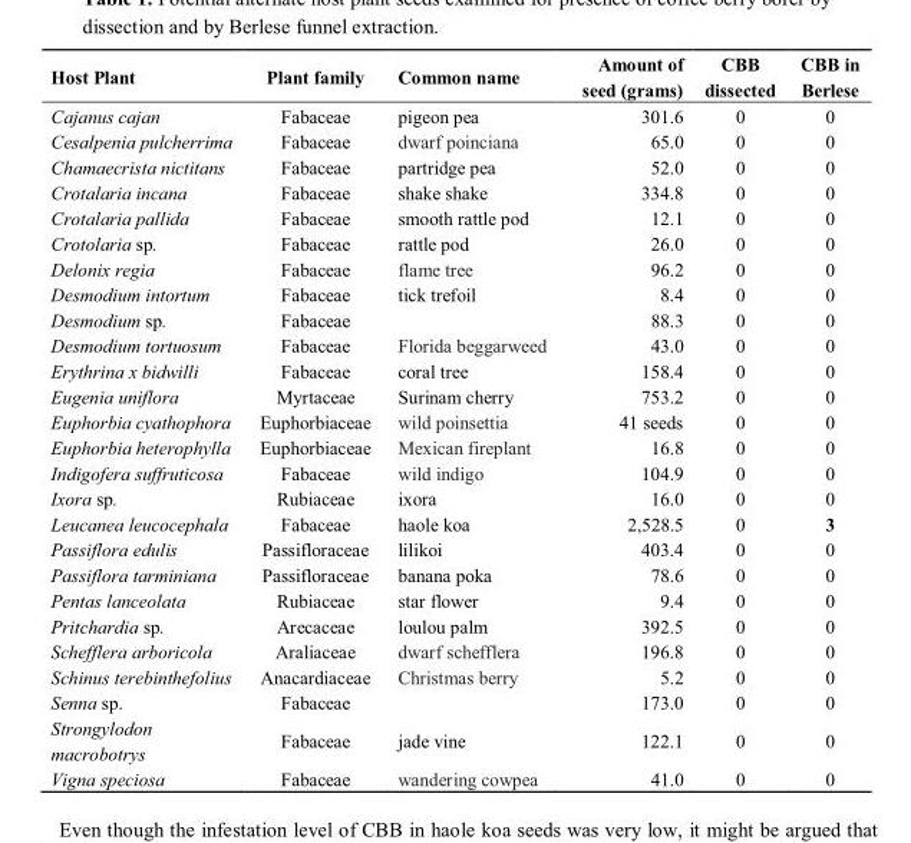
<table><thead><tr><td>Host Plant</td><td>Plant family</td><td>Common name</td><td>Amount of seed (grams)</td><td>CBB dissected</td><td>CBB in Berlese</td></tr></thead><tbody><tr><td>Cajanus cajan</td><td>Fabaceae</td><td>pigeon pea</td><td>301.6</td><td>0</td><td>0</td></tr><tr><td>Cesalpenia pulcherrima</td><td>Fabaceae</td><td>dwarf poinciana</td><td>65.0</td><td>0</td><td>0</td></tr><tr><td>Chamaecrista nictitans</td><td>Fabaceae</td><td>partridge pea</td><td>52.0</td><td>0</td><td>0</td></tr><tr><td>Crotalaria incana</td><td>Fabaceae</td><td>shake shake</td><td>334.8</td><td>0</td><td>0</td></tr><tr><td>Crotalaria pallida</td><td>Fabaceae</td><td>smooth rattle pod</td><td>12.1</td><td>0</td><td>0</td></tr><tr><td>Crotolaria sp.</td><td>Fabaceae</td><td>rattle pod</td><td>26.0</td><td>0</td><td>0</td></tr><tr><td>Delonix regia</td><td>Fabaceae</td><td>flame tree</td><td>96.2</td><td>0</td><td>0</td></tr><tr><td>Desmodium intortum</td><td>Fabaceae</td><td>tick trefoil</td><td>8.4</td><td>0</td><td>0</td></tr><tr><td>Desmodium sp.</td><td>Fabaceae</td><td></td><td>88.3</td><td>0</td><td>0</td></tr><tr><td>Desmodium tortuosum</td><td>Fabaceae</td><td>Florida beggarweed</td><td>43.0</td><td>0</td><td>0</td></tr><tr><td>Erythrina x bidwilli</td><td>Fabaceae</td><td>coral tree</td><td>158.4</td><td>0</td><td>0</td></tr><tr><td>Eugenia uniflora</td><td>Myrtaceae</td><td>Surinam cherry</td><td>753.2</td><td>0</td><td>0</td></tr><tr><td>Euphorbia cyathophora</td><td>Euphorbiaceae</td><td>wild poinsettia</td><td>41 seeds</td><td>0</td><td>0</td></tr><tr><td>Euphorbia heterophylla</td><td>Euphorbiaceae</td><td>Mexican fireplant</td><td>16.8</td><td>0</td><td>0</td></tr><tr><td>Indigofera suffruticosa</td><td>Fabaceae</td><td>wild indigo</td><td>104.9</td><td>0</td><td>0</td></tr><tr><td>Ixora sp.</td><td>Rubiaceae</td><td>ixora</td><td>16.0</td><td>0</td><td>0</td></tr><tr><td>Leucanea leucocephala</td><td>Fabaceae</td><td>haole koa</td><td>2,528.5</td><td>0</td><td>3</td></tr><tr><td>Passiflora edulis</td><td>Passifloraceae</td><td>lilikoi</td><td>403.4</td><td>0</td><td>0</td></tr><tr><td>Passiflora tarminiana</td><td>Passifloraceae</td><td>banana poka</td><td>78.6</td><td>0</td><td>0</td></tr><tr><td>Pentas lanceolata</td><td>Rubiaceae</td><td>star flower</td><td>9.4</td><td>0</td><td>0</td></tr><tr><td>Pritchardia sp.</td><td>Arecaceae</td><td>loulou palm</td><td>392.5</td><td>0</td><td>0</td></tr><tr><td>Schefflera arboricola</td><td>Araliaceae</td><td>dwarf schefflera</td><td>196.8</td><td>0</td><td>0</td></tr><tr><td>Schinus terebinthefolius</td><td>Anacardiaceae</td><td>Christmas berry</td><td>5.2</td><td>0</td><td>0</td></tr><tr><td>Senna sp.</td><td>Fabaceae</td><td></td><td>173.0</td><td>0</td><td>0</td></tr><tr><td>Strongylodon macrobotrys</td><td>Fabaceae</td><td>jade vine</td><td>122.1</td><td>0</td><td>0</td></tr><tr><td>Vigna speciosa</td><td>Fabaceae</td><td>wandering cowpea</td><td>41.0</td><td>0</td><td>0</td></tr></tbody></table>